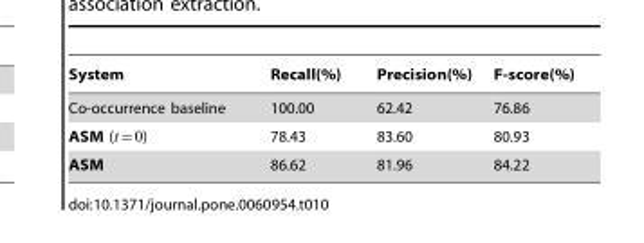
<table><thead><tr><td>System</td><td>Recall(%)</td><td>Precision(%)</td><td>F-score(%)</td></tr></thead><tbody><tr><td>Co-occurrence baseline</td><td>100.00</td><td>62.42</td><td>76.86</td></tr><tr><td>ASM (t~0)</td><td>78.43</td><td>83.60</td><td>80.93</td></tr><tr><td>ASM</td><td>86.62</td><td>81.96</td><td>84.22</td></tr></tbody></table>